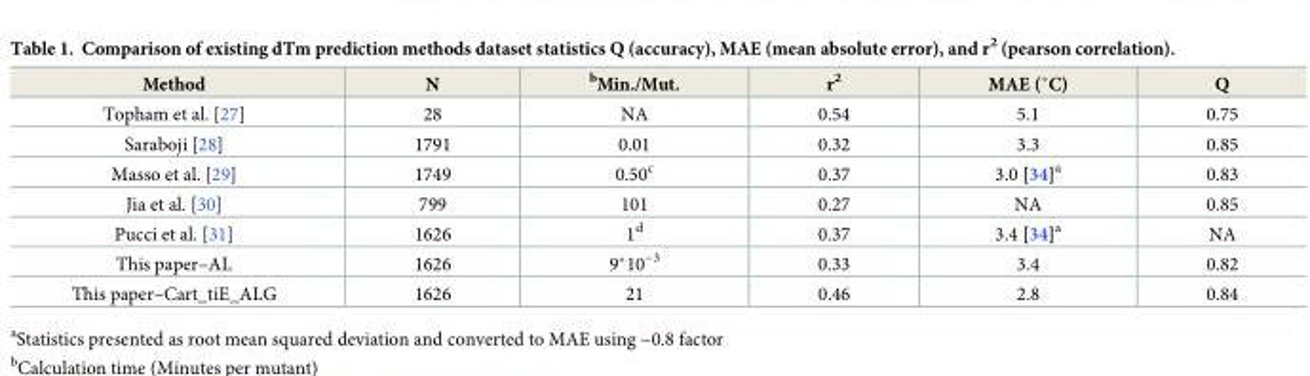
<table><thead><tr><td>Method</td><td>N</td><td><sup>b</sup>Min./Mut.</td><td>r<sup>2</sup></td><td>MAE (˚C)</td><td>Q</td></tr></thead><tbody><tr><td>Topham et al. [27]</td><td>28</td><td>NA</td><td>0.54</td><td>5.1</td><td>0.75</td></tr><tr><td>Saraboji [28]</td><td>1791</td><td>0.01</td><td>0.32</td><td>3.3</td><td>0.85</td></tr><tr><td>Masso et al. [29]</td><td>1749</td><td>0.50<sup>c</sup></td><td>0.37</td><td>3.0 [34]<sup>a</sup></td><td>0.83</td></tr><tr><td>Jia et al. [30]</td><td>799</td><td>101</td><td>0.27</td><td>NA</td><td>0.85</td></tr><tr><td>Pucci et al. [31]</td><td>1626</td><td>1<sup>d</sup></td><td>0.37</td><td>3.4 [34]<sup>a</sup></td><td>NA</td></tr><tr><td>This paper–AL</td><td>1626</td><td>9*10<sup>−3</sup></td><td>0.33</td><td>3.4</td><td>0.82</td></tr><tr><td>This paper–Cart_tiE_ALG</td><td>1626</td><td>21</td><td>0.46</td><td>2.8</td><td>0.84</td></tr></tbody></table>